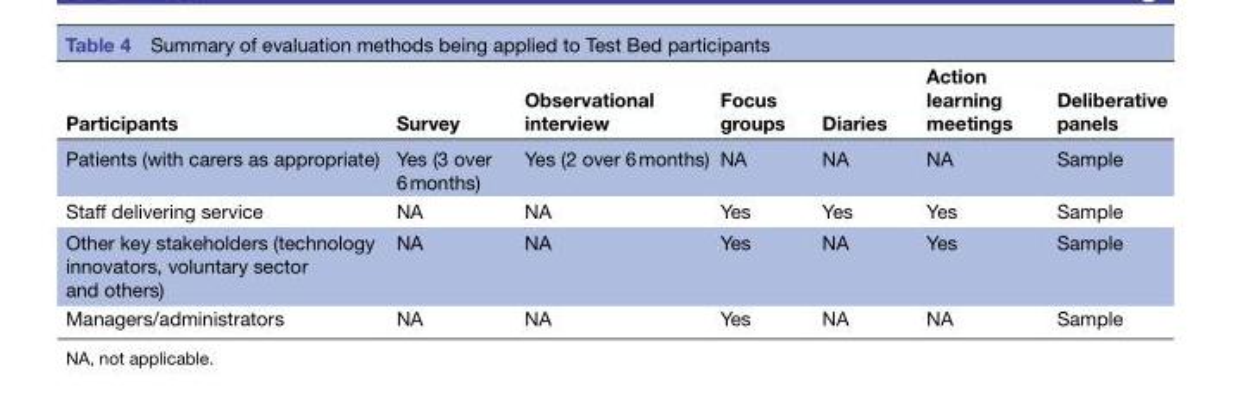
<table><thead><tr><td>Participants</td><td>Survey</td><td>Observational interview</td><td>Focus groups</td><td>Diaries</td><td>Action learning meetings</td><td>Deliberative panels</td></tr></thead><tbody><tr><td>Patients (with carers as appropriate)</td><td>Yes (3 over 6 months)</td><td>Yes (2 over 6 months)</td><td>NA</td><td>NA</td><td>NA</td><td>Sample</td></tr><tr><td>Staff delivering service</td><td>NA</td><td>NA</td><td>Yes</td><td>Yes</td><td>Yes</td><td>Sample</td></tr><tr><td>Other key stakeholders (technology innovators, voluntary sector and others)</td><td>NA</td><td>NA</td><td>Yes</td><td>NA</td><td>Yes</td><td>Sample</td></tr><tr><td>Managers/administrators</td><td>NA</td><td>NA</td><td>Yes</td><td>NA</td><td>NA</td><td>Sample</td></tr></tbody></table>